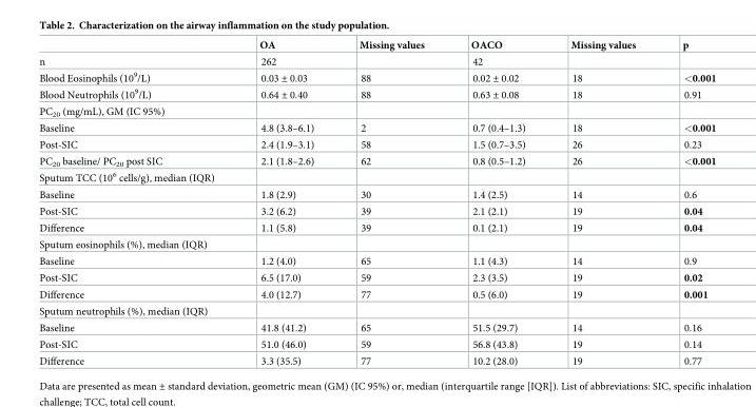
<table><thead><tr><td></td><td>OA</td><td>Missing values</td><td>OACO</td><td>Missing values</td><td>p</td></tr></thead><tbody><tr><td>n</td><td>262</td><td></td><td>42</td><td></td><td></td></tr><tr><td>Blood Eosinophils (10<sup>9</sup>/L)</td><td>0.03 ± 0.03</td><td>88</td><td>0.02 ± 0.02</td><td>18</td><td>&lt;0.001</td></tr><tr><td>Blood Neutrophils (10<sup>9</sup>/L)</td><td>0.64 ± 0.40</td><td>88</td><td>0.63 ± 0.08</td><td>18</td><td>0.91</td></tr><tr><td colspan="6">PC<sub>20</sub> (mg/mL), GM (IC 95%)</td></tr><tr><td>Baseline</td><td>4.8 (3.8–6.1)</td><td>2</td><td>0.7 (0.4–1.3)</td><td>18</td><td>&lt;0.001</td></tr><tr><td>Post-SIC</td><td>2.4 (1.9–3.1)</td><td>58</td><td>1.5 (0.7–3.5)</td><td>26</td><td>0.23</td></tr><tr><td>PC<sub>20</sub> baseline/ PC<sub>20</sub> post SIC</td><td>2.1 (1.8–2.6)</td><td>62</td><td>0.8 (0.5–1.2)</td><td>26</td><td>&lt;0.001</td></tr><tr><td colspan="6">Sputum TCC (10<sup>6</sup> cells/g), median (IQR)</td></tr><tr><td>Baseline</td><td>1.8 (2.9)</td><td>30</td><td>1.4 (2.5)</td><td>14</td><td>0.6</td></tr><tr><td>Post-SIC</td><td>3.2 (6.2)</td><td>39</td><td>2.1 (2.1)</td><td>19</td><td>0.04</td></tr><tr><td>Difference</td><td>1.1 (5.8)</td><td>39</td><td>0.1 (2.1)</td><td>19</td><td>0.04</td></tr><tr><td colspan="6">Sputum eosinophils (%), median (IQR)</td></tr><tr><td>Baseline</td><td>1.2 (4.0)</td><td>65</td><td>1.1 (4.3)</td><td>14</td><td>0.9</td></tr><tr><td>Post-SIC</td><td>6.5 (17.0)</td><td>59</td><td>2.3 (3.5)</td><td>19</td><td>0.02</td></tr><tr><td>Difference</td><td>4.0 (12.7)</td><td>77</td><td>0.5 (6.0)</td><td>19</td><td>0.001</td></tr><tr><td colspan="6">Sputum neutrophils (%), median (IQR)</td></tr><tr><td>Baseline</td><td>41.8 (41.2)</td><td>65</td><td>51.5 (29.7)</td><td>14</td><td>0.16</td></tr><tr><td>Post-SIC</td><td>51.0 (46.0)</td><td>59</td><td>56.8 (43.8)</td><td>19</td><td>0.14</td></tr><tr><td>Difference</td><td>3.3 (35.5)</td><td>77</td><td>10.2 (28.0)</td><td>19</td><td>0.77</td></tr></tbody></table>